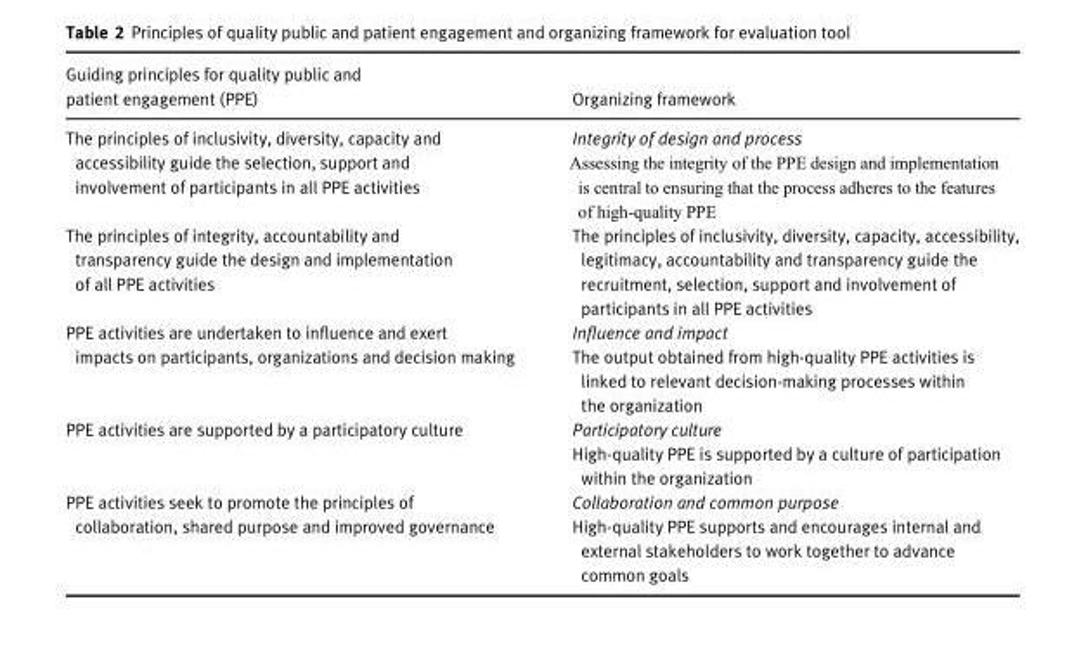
<table><thead><tr><td>Guiding principles for quality public and patient engagement (PPE)</td><td>Organizing framework</td></tr></thead><tbody><tr><td>The principles of inclusivity, diversity, capacity and accessibility guide the selection, support and involvement of participants in all PPE activities</td><td>Integrity of design and process Assessing the integrity of the PPE design and implementation is central to ensuring that the process adheres to the features of high-quality PPE</td></tr><tr><td>The principles of integrity, accountability and transparency guide the design and implementation of all PPE activities</td><td>The principles of inclusivity, diversity, capacity, accessibility, legitimacy, accountability and transparency guide the recruitment, selection, support and involvement of participants in all PPE activities</td></tr><tr><td rowspan="2">PPE activities are undertaken to influence and exert impacts on participants, organizations and decision making</td><td>Influence and impact</td></tr><tr><td>The output obtained from high-quality PPE activities is linked to relevant decision-making processes within the organization</td></tr><tr><td rowspan="2">PPE activities are supported by a participatory culture</td><td>Participatory culture</td></tr><tr><td>High-quality PPE is supported by a culture of participation within the organization</td></tr><tr><td rowspan="2">PPE activities seek to promote the principles of collaboration, shared purpose and improved governance</td><td>Collaboration and common purpose</td></tr><tr><td>High-quality PPE supports and encourages internal and external stakeholders to work together to advance common goals</td></tr></tbody></table>